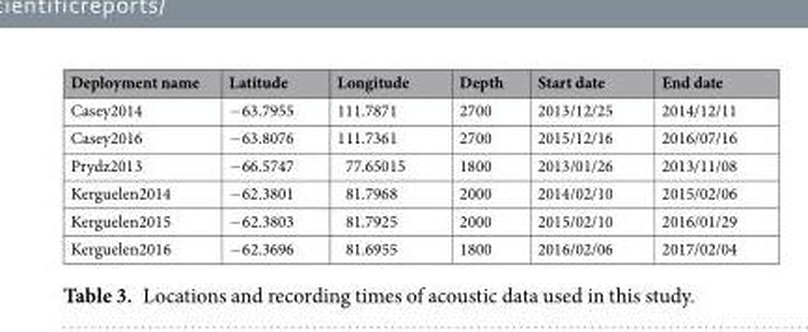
<table><thead><tr><td>Deployment name</td><td>Latitude</td><td>Longitude</td><td>Depth</td><td>Start date</td><td>End date</td></tr></thead><tbody><tr><td>Casey2014</td><td>−63.7955</td><td>111.7871</td><td>2700</td><td>2013/12/25</td><td>2014/12/11</td></tr><tr><td>Casey2016</td><td>−63.8076</td><td>111.7361</td><td>2700</td><td>2015/12/16</td><td>2016/07/16</td></tr><tr><td>Prydz2013</td><td>−66.5747</td><td>77.65015</td><td>1800</td><td>2013/01/26</td><td>2013/11/08</td></tr><tr><td>Kerguelen2014</td><td>−62.3801</td><td>81.7968</td><td>2000</td><td>2014/02/10</td><td>2015/02/06</td></tr><tr><td>Kerguelen2015</td><td>−62.3803</td><td>81.7925</td><td>2000</td><td>2015/02/10</td><td>2016/01/29</td></tr><tr><td>Kerguelen2016</td><td>−62.3696</td><td>81.6955</td><td>1800</td><td>2016/02/06</td><td>2017/02/04</td></tr></tbody></table>